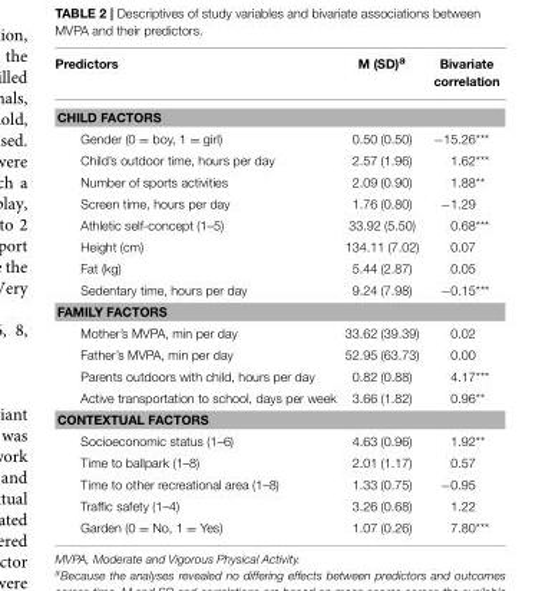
<table><thead><tr><td>Predictors</td><td>M (SD)<sup>a</sup></td><td>Bivariate correlation</td></tr></thead><tbody><tr><td colspan="3">CHILD FACTORS</td></tr><tr><td>Gender (0 = boy, 1 = girl)</td><td>0.50 (0.50)</td><td>−15.26***</td></tr><tr><td>Child’s outdoor time, hours per day</td><td>2.57 (1.96)</td><td>1.62***</td></tr><tr><td>Number of sports activities</td><td>2.09 (0.90)</td><td>1.88**</td></tr><tr><td>Screen time, hours per day</td><td>1.76 (0.80)</td><td>−1.29</td></tr><tr><td>Athletic self-concept (1–5)</td><td>33.92 (5.50)</td><td>0.68***</td></tr><tr><td>Height (cm)</td><td>134.11 (7.02)</td><td>0.07</td></tr><tr><td>Fat (kg)</td><td>5.44 (2.87)</td><td>0.05</td></tr><tr><td>Sedentary time, hours per day</td><td>9.24 (7.98)</td><td>−0.15***</td></tr><tr><td colspan="3">FAMILY FACTORS</td></tr><tr><td>Mother’s MVPA, min per day</td><td>33.62 (39.39)</td><td>0.02</td></tr><tr><td>Father’s MVPA, min per day</td><td>52.95 (63.73)</td><td>0.00</td></tr><tr><td>Parents outdoors with child, hours per day</td><td>0.82 (0.88)</td><td>4.17***</td></tr><tr><td>Active transportation to school, days per week</td><td>3.66 (1.82)</td><td>0.96**</td></tr><tr><td colspan="3">CONTEXTUAL FACTORS</td></tr><tr><td>Socioeconomic status (1–6)</td><td>4.63 (0.96)</td><td>1.92**</td></tr><tr><td>Time to ballpark (1–8)</td><td>2.01 (1.17)</td><td>0.57</td></tr><tr><td>Time to other recreational area (1–8)</td><td>1.33 (0.75)</td><td>−0.95</td></tr><tr><td>Traffic safety (1–4)</td><td>3.26 (0.68)</td><td>1.22</td></tr><tr><td>Garden (0 = No, 1 = Yes)</td><td>1.07 (0.26)</td><td>7.80***</td></tr></tbody></table>